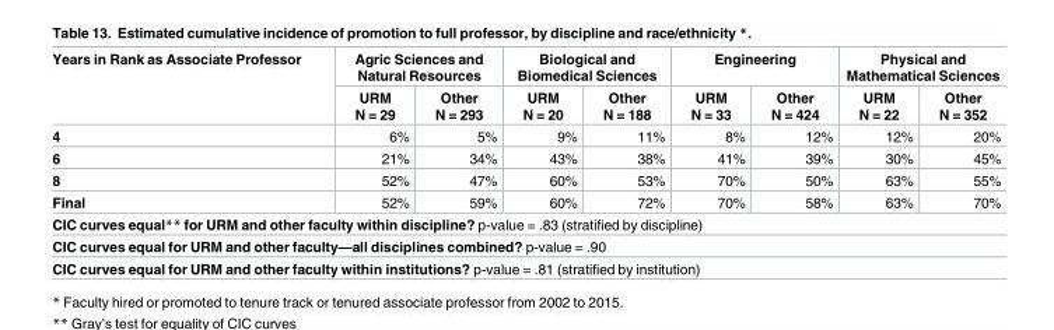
<table><thead><tr><td rowspan="2">Years in Rank as Associate Professor</td><td colspan="2">Agric Sciences and Natural Resources</td><td colspan="2">Biological and Biomedical Sciences</td><td colspan="2">Engineering</td><td colspan="2">Physical and Mathematical Sciences</td></tr><tr><td>URM N = 29</td><td>Other N = 293</td><td>URM N = 20</td><td>Other N = 188</td><td>URM N = 33</td><td>Other N = 424</td><td>URM N = 22</td><td>Other N = 352</td></tr></thead><tbody><tr><td>4</td><td>6%</td><td>5%</td><td>9%</td><td>11%</td><td>8%</td><td>12%</td><td>12%</td><td>20%</td></tr><tr><td>6</td><td>21%</td><td>34%</td><td>43%</td><td>38%</td><td>41%</td><td>39%</td><td>30%</td><td>45%</td></tr><tr><td>8</td><td>52%</td><td>47%</td><td>60%</td><td>53%</td><td>70%</td><td>50%</td><td>63%</td><td>55%</td></tr><tr><td>Final</td><td>52%</td><td>59%</td><td>60%</td><td>72%</td><td>70%</td><td>58%</td><td>63%</td><td>70%</td></tr><tr><td colspan="9">CIC curves equal** for URM and other faculty within discipline? p-value = .83 (stratified by discipline)</td></tr><tr><td colspan="9">CIC curves equal for URM and other faculty—all disciplines combined? p-value = .90</td></tr><tr><td colspan="9">CIC curves equal for URM and other faculty within institutions? p-value = .81 (stratified by institution)</td></tr></tbody></table>